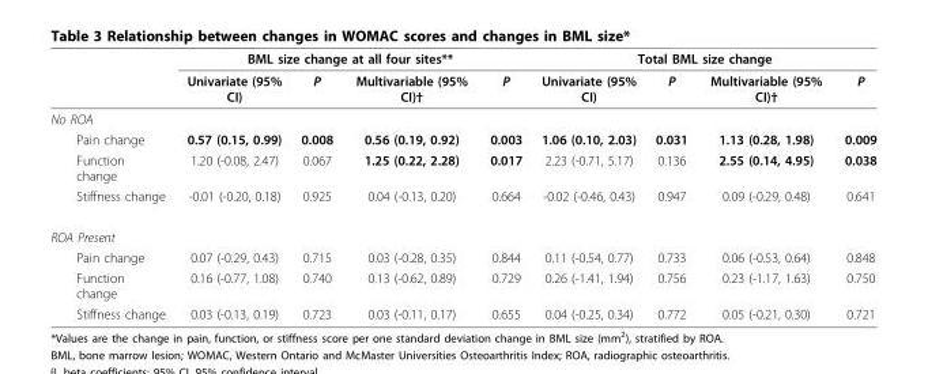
<table><thead><tr><td rowspan="2"></td><td colspan="4">BML size change at all four sites**</td><td colspan="4">Total BML size change</td></tr><tr><td>Univariate (95% CI)</td><td>P</td><td>Multivariable (95% CI)†</td><td>P</td><td>Univariate (95% CI)</td><td>P</td><td>Multivariable (95% CI)†</td><td>P</td></tr></thead><tbody><tr><td colspan="9">No ROA</td></tr><tr><td>Pain change</td><td>0.57 (0.15, 0.99)</td><td>0.008</td><td>0.56 (0.19, 0.92)</td><td>0.003</td><td>1.06 (0.10, 2.03)</td><td>0.031</td><td>1.13 (0.28, 1.98)</td><td>0.009</td></tr><tr><td>Function change</td><td>1.20 (-0.08, 2.47)</td><td>0.067</td><td>1.25 (0.22, 2.28)</td><td>0.017</td><td>2.23 (-0.71, 5.17)</td><td>0.136</td><td>2.55 (0.14, 4.95)</td><td>0.038</td></tr><tr><td>Stiffness change</td><td>-0.01 (-0.20, 0.18)</td><td>0.925</td><td>0.04 (-0.13, 0.20)</td><td>0.664</td><td>-0.02 (-0.46, 0.43)</td><td>0.947</td><td>0.09 (-0.29, 0.48)</td><td>0.641</td></tr><tr><td colspan="9">ROA Present</td></tr><tr><td>Pain change</td><td>0.07 (-0.29, 0.43)</td><td>0.715</td><td>0.03 (-0.28, 0.35)</td><td>0.844</td><td>0.11 (-0.54, 0.77)</td><td>0.733</td><td>0.06 (-0.53, 0.64)</td><td>0.848</td></tr><tr><td>Function change</td><td>0.16 (-0.77, 1.08)</td><td>0.740</td><td>0.13 (-0.62, 0.89)</td><td>0.729</td><td>0.26 (-1.41, 1.94)</td><td>0.756</td><td>0.23 (-1.17, 1.63)</td><td>0.750</td></tr><tr><td>Stiffness change</td><td>0.03 (-0.13, 0.19)</td><td>0.723</td><td>0.03 (-0.11, 0.17)</td><td>0.655</td><td>0.04 (-0.25, 0.34)</td><td>0.772</td><td>0.05 (-0.21, 0.30)</td><td>0.721</td></tr></tbody></table>